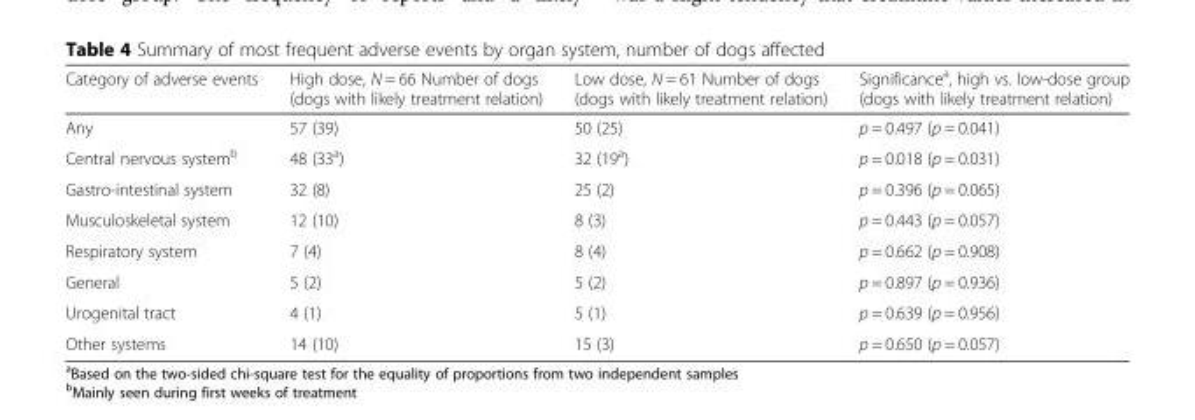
<table><thead><tr><td>Category of adverse events</td><td>High dose, N = 66 Number of dogs (dogs with likely treatment relation)</td><td>Low dose, N = 61 Number of dogs (dogs with likely treatment relation)</td><td>Significance<sup>a</sup>, high vs. low-dose group (dogs with likely treatment relation)</td></tr></thead><tbody><tr><td>Any</td><td>57 (39)</td><td>50 (25)</td><td>p = 0.497 (p = 0.041)</td></tr><tr><td>Central nervous system<sup>b</sup></td><td>48 (33<sup>a</sup>)</td><td>32 (19<sup>a</sup>)</td><td>p = 0.018 (p = 0.031)</td></tr><tr><td>Gastro-intestinal system</td><td>32 (8)</td><td>25 (2)</td><td>p = 0.396 (p = 0.065)</td></tr><tr><td>Musculoskeletal system</td><td>12 (10)</td><td>8 (3)</td><td>p = 0.443 (p = 0.057)</td></tr><tr><td>Respiratory system</td><td>7 (4)</td><td>8 (4)</td><td>p = 0.662 (p = 0.908)</td></tr><tr><td>General</td><td>5 (2)</td><td>5 (2)</td><td>p = 0.897 (p = 0.936)</td></tr><tr><td>Urogenital tract</td><td>4 (1)</td><td>5 (1)</td><td>p = 0.639 (p = 0.956)</td></tr><tr><td>Other systems</td><td>14 (10)</td><td>15 (3)</td><td>p = 0.650 (p = 0.057)</td></tr></tbody></table>